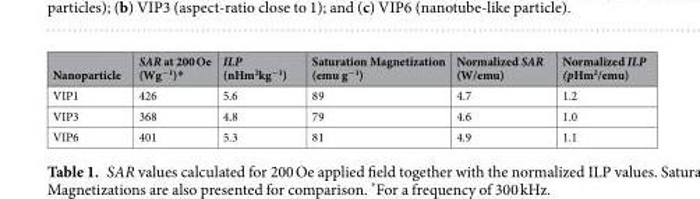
<table><thead><tr><td>Nanoparticle</td><td>SAR at 200 Oe (Wg<sup>−1</sup>)*</td><td>ILP (nHm<sup>2</sup>kg<sup>−1</sup>)</td><td>Saturation Magnetization (emu g<sup>−1</sup>)</td><td>Normalized SAR (W/emu)</td><td>Normalized ILP (pHm<sup>2</sup>/emu)</td></tr></thead><tbody><tr><td>VIP1</td><td>426</td><td>5.6</td><td>89</td><td>4.7</td><td>1.2</td></tr><tr><td>VIP3</td><td>368</td><td>4.8</td><td>79</td><td>4.6</td><td>1.0</td></tr><tr><td>VIP6</td><td>401</td><td>5.3</td><td>81</td><td>4.9</td><td>1.1</td></tr></tbody></table>